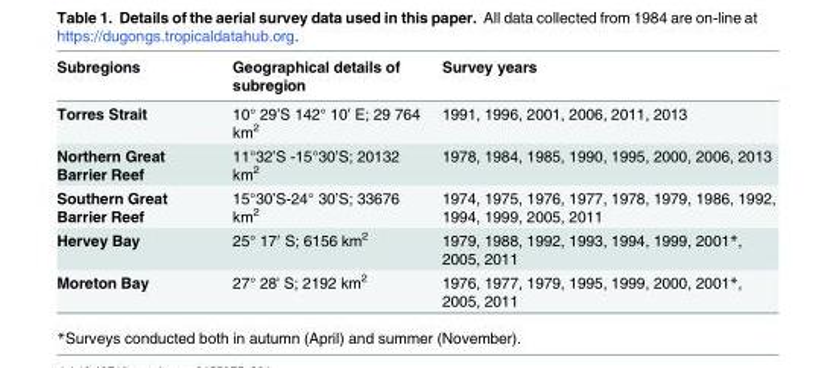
<table><thead><tr><td>Subregions</td><td>Geographical details of subregion</td><td>Survey years</td></tr></thead><tbody><tr><td>Torres Strait</td><td>10° 29’S 142° 10’ E; 29 764 km<sup>2</sup></td><td>1991, 1996, 2001, 2006, 2011, 2013</td></tr><tr><td>Northern Great Barrier Reef</td><td>11°32’S -15°30’S; 20132 km<sup>2</sup></td><td>1978, 1984, 1985, 1990, 1995, 2000, 2006, 2013</td></tr><tr><td>Southern Great Barrier Reef</td><td>15°30’S-24° 30’S; 33676 km<sup>2</sup></td><td>1974, 1975, 1976, 1977, 1978, 1979, 1986, 1992, 1994, 1999, 2005, 2011</td></tr><tr><td>Hervey Bay</td><td>25° 17′ S; 6156 km<sup>2</sup></td><td>1979, 1988, 1992, 1993, 1994, 1999, 2001*, 2005, 2011</td></tr><tr><td>Moreton Bay</td><td>27° 28&#x27; S; 2192 km<sup>2</sup></td><td>1976, 1977, 1979, 1995, 1999, 2000, 2001*, 2005, 2011</td></tr></tbody></table>